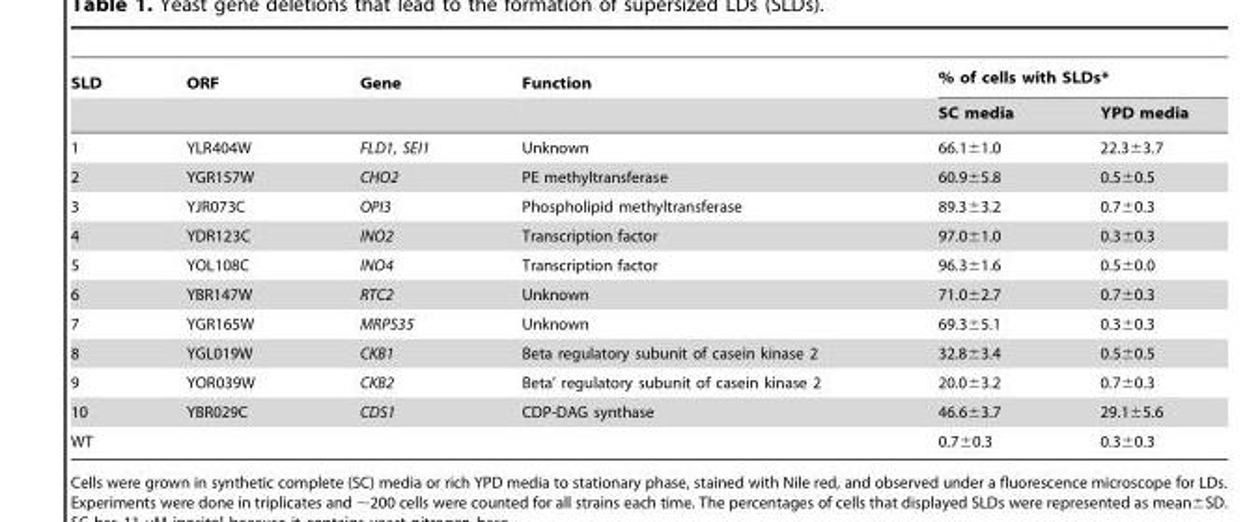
<table><thead><tr><td rowspan="2">SLD</td><td rowspan="2">ORF</td><td rowspan="2">Gene</td><td rowspan="2">Function</td><td colspan="2">% of cells with SLDs*</td></tr><tr><td>SC media</td><td>YPD media</td></tr></thead><tbody><tr><td>1</td><td>YLR404W</td><td>FLD1, SEI1</td><td>Unknown</td><td>66.1±1.0</td><td>22.3±3.7</td></tr><tr><td>2</td><td>YGR157W</td><td>CHO2</td><td>PE methyltransferase</td><td>60.9±5.8</td><td>0.5±0.5</td></tr><tr><td>3</td><td>YJR073C</td><td>OPI3</td><td>Phospholipid methyltransferase</td><td>89.3±3.2</td><td>0.7±0.3</td></tr><tr><td>4</td><td>YDR123C</td><td>INO2</td><td>Transcription factor</td><td>97.0±1.0</td><td>0.3±0.3</td></tr><tr><td>5</td><td>YOL108C</td><td>INO4</td><td>Transcription factor</td><td>96.3±1.6</td><td>0.5±0.0</td></tr><tr><td>6</td><td>YBR147W</td><td>RTC2</td><td>Unknown</td><td>71.0±2.7</td><td>0.7±0.3</td></tr><tr><td>7</td><td>YGR165W</td><td>MRPS35</td><td>Unknown</td><td>69.3±5.1</td><td>0.3±0.3</td></tr><tr><td>8</td><td>YGL019W</td><td>CKB1</td><td>Beta regulatory subunit of casein kinase 2</td><td>32.8±3.4</td><td>0.5±0.5</td></tr><tr><td>9</td><td>YOR039W</td><td>CKB2</td><td>Beta’ regulatory subunit of casein kinase 2</td><td>20.0±3.2</td><td>0.7±0.3</td></tr><tr><td>10</td><td>YBR029C</td><td>CDS1</td><td>CDP-DAG synthase</td><td>46.6±3.7</td><td>29.1±5.6</td></tr><tr><td>WT</td><td></td><td></td><td></td><td>0.7±0.3</td><td>0.3±0.3</td></tr></tbody></table>